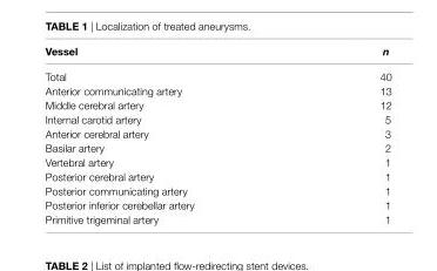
<table><thead><tr><td>Vessel</td><td>n</td></tr></thead><tbody><tr><td>Total</td><td>40</td></tr><tr><td>Anterior communicating artery</td><td>13</td></tr><tr><td>Middle cerebral artery</td><td>12</td></tr><tr><td>Internal carotid artery</td><td>5</td></tr><tr><td>Anterior cerebral artery</td><td>3</td></tr><tr><td>Basilar artery</td><td>2</td></tr><tr><td>Vertebral artery</td><td>1</td></tr><tr><td>Posterior cerebral artery</td><td>1</td></tr><tr><td>Posterior communicating artery</td><td>1</td></tr><tr><td>Posterior inferior cerebellar artery</td><td>1</td></tr><tr><td>Primitive trigeminal artery</td><td>1</td></tr></tbody></table>